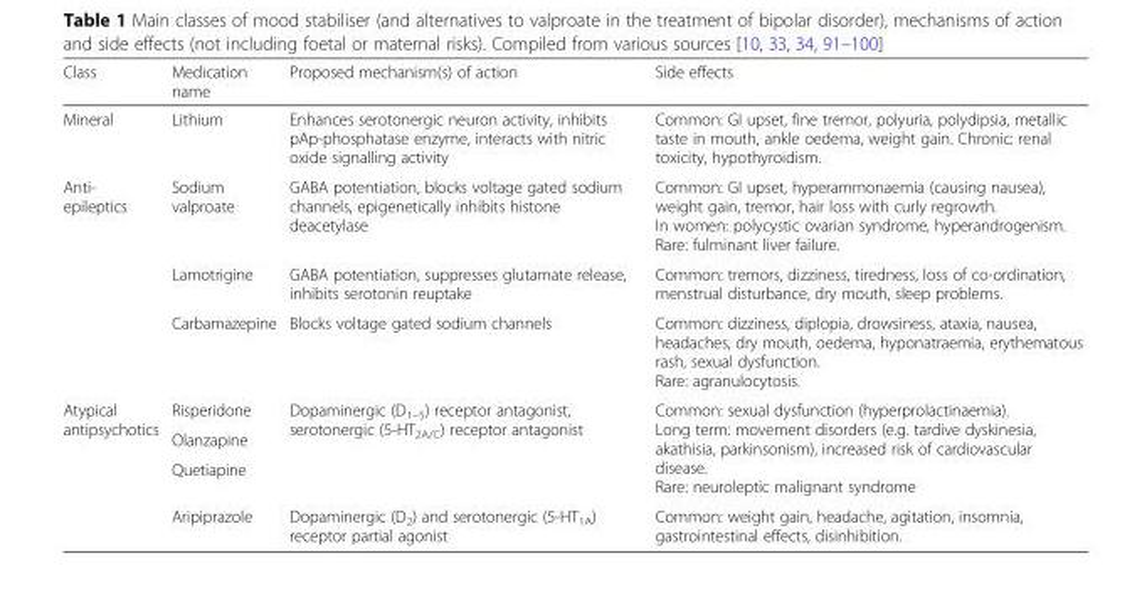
<table><thead><tr><td>Class</td><td>Medication name</td><td>Proposed mechanism(s) of action</td><td>Side effects</td></tr></thead><tbody><tr><td>Mineral</td><td>Lithium</td><td>Enhances serotonergic neuron activity, inhibits pAp-phosphatase enzyme, interacts with nitric oxide signalling activity</td><td>Common: GI upset, fine tremor, polyuria, polydipsia, metallic taste in mouth, ankle oedema, weight gain. Chronic: renal toxicity, hypothyroidism.</td></tr><tr><td rowspan="3">Anti- epileptics</td><td>Sodium valproate</td><td>GABA potentiation, blocks voltage gated sodium channels, epigenetically inhibits histone deacetylase</td><td>Common: GI upset, hyperammonaemia (causing nausea), weight gain, tremor, hair loss with curly regrowth. In women: polycystic ovarian syndrome, hyperandrogenism. Rare: fulminant liver failure.</td></tr><tr><td>Lamotrigine</td><td>GABA potentiation, suppresses glutamate release, inhibits serotonin reuptake</td><td>Common: tremors, dizziness, tiredness, loss of co-ordination, menstrual disturbance, dry mouth, sleep problems.</td></tr><tr><td>Carbamazepine</td><td>Blocks voltage gated sodium channels</td><td>Common: dizziness, diplopia, drowsiness, ataxia, nausea, headaches, dry mouth, oedema, hyponatraemia, erythematous rash, sexual dysfunction. Rare: agranulocytosis.</td></tr><tr><td rowspan="4">Atypical antipsychotics</td><td>Risperidone</td><td rowspan="3">Dopaminergic (D<sub>1–5</sub>) receptor antagonist, serotonergic (5-HT<sub>2A/C</sub>) receptor antagonist</td><td rowspan="3">Common: sexual dysfunction (hyperprolactinaemia). Long term: movement disorders (e.g. tardive dyskinesia, akathisia, parkinsonism), increased risk of cardiovascular disease. Rare: neuroleptic malignant syndrome</td></tr><tr><td>Olanzapine</td></tr><tr><td>Quetiapine</td></tr><tr><td>Aripiprazole</td><td>Dopaminergic (D<sub>2</sub>) and serotonergic (5-HT<sub>1A</sub>) receptor partial agonist</td><td>Common: weight gain, headache, agitation, insomnia, gastrointestinal effects, disinhibition.</td></tr></tbody></table>